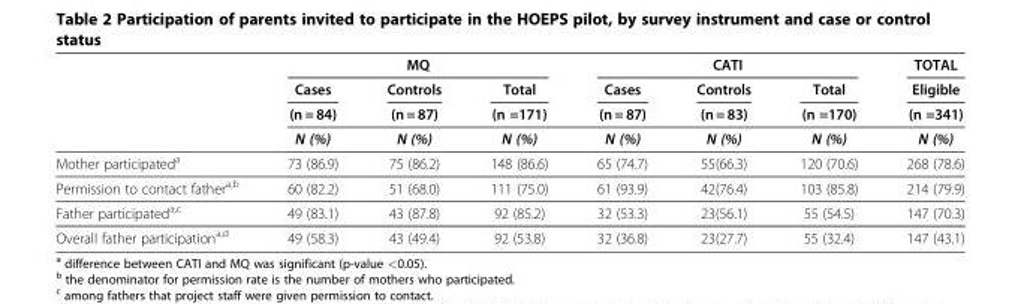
<table><thead><tr><td rowspan="3"></td><td colspan="3">MQ</td><td colspan="3">CATI</td><td rowspan="3">TOTAL Eligible (n =341)</td></tr><tr><td rowspan="2">Cases (n = 84)</td><td rowspan="2">Controls (n = 87)</td><td rowspan="2">Total (n =171)</td><td rowspan="2">Cases (n = 87)</td><td rowspan="2">Controls (n = 83)</td><td rowspan="2">Total (n =170)</td></tr><tr></tr></thead><tbody><tr><td></td><td>N (%)</td><td>N (%)</td><td>N (%)</td><td>N (%)</td><td>N (%)</td><td>N (%)</td><td>N (%)</td></tr><tr><td>Mother participated<sup>a</sup></td><td>73 (86.9)</td><td>75 (86.2)</td><td>148 (86.6)</td><td>65 (74.7)</td><td>55(66.3)</td><td>120 (70.6)</td><td>268 (78.6)</td></tr><tr><td>Permission to contact father<sup>a,b</sup></td><td>60 (82.2)</td><td>51 (68.0)</td><td>111 (75.0)</td><td>61 (93.9)</td><td>42(76.4)</td><td>103 (85.8)</td><td>214 (79.9)</td></tr><tr><td>Father participated<sup>a,c</sup></td><td>49 (83.1)</td><td>43 (87.8)</td><td>92 (85.2)</td><td>32 (53.3)</td><td>23(56.1)</td><td>55 (54.5)</td><td>147 (70.3)</td></tr><tr><td>Overall father participation<sup>a,d</sup></td><td>49 (58.3)</td><td>43 (49.4)</td><td>92 (53.8)</td><td>32 (36.8)</td><td>23(27.7)</td><td>55 (32.4)</td><td>147 (43.1)</td></tr></tbody></table>